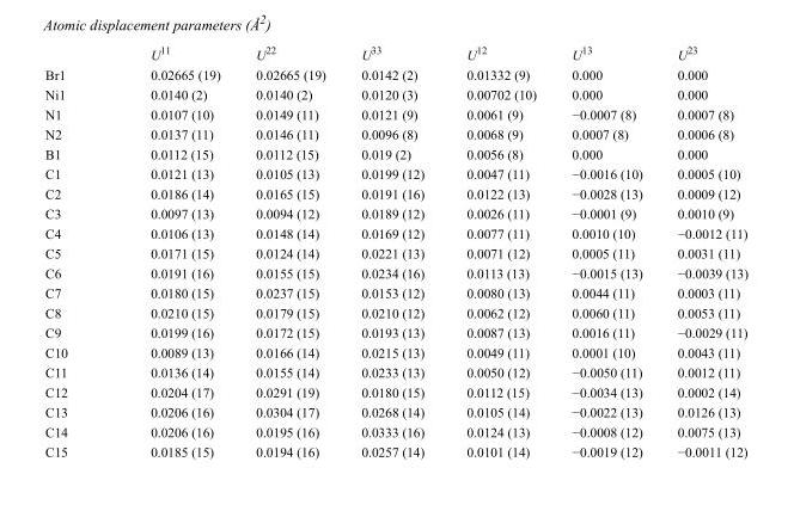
<table><thead><tr><td></td><td>U<sup>11</sup></td><td>U<sup>22</sup></td><td>U<sup>33</sup></td><td>U<sup>12</sup></td><td>U<sup>13</sup></td><td>U<sup>23</sup></td></tr></thead><tbody><tr><td>Br1</td><td>0.02665 (19)</td><td>0.02665 (19)</td><td>0.0142 (2)</td><td>0.01332 (9)</td><td>0.000</td><td>0.000</td></tr><tr><td>Ni1</td><td>0.0140 (2)</td><td>0.0140 (2)</td><td>0.0120 (3)</td><td>0.00702 (10)</td><td>0.000</td><td>0.000</td></tr><tr><td>N1</td><td>0.0107 (10)</td><td>0.0149 (11)</td><td>0.0121 (9)</td><td>0.0061 (9)</td><td>−0.0007 (8)</td><td>0.0007 (8)</td></tr><tr><td>N2</td><td>0.0137 (11)</td><td>0.0146 (11)</td><td>0.0096 (8)</td><td>0.0068 (9)</td><td>0.0007 (8)</td><td>0.0006 (8)</td></tr><tr><td>B1</td><td>0.0112 (15)</td><td>0.0112 (15)</td><td>0.019 (2)</td><td>0.0056 (8)</td><td>0.000</td><td>0.000</td></tr><tr><td>C1</td><td>0.0121 (13)</td><td>0.0105 (13)</td><td>0.0199 (12)</td><td>0.0047 (11)</td><td>−0.0016 (10)</td><td>0.0005 (10)</td></tr><tr><td>C2</td><td>0.0186 (14)</td><td>0.0165 (15)</td><td>0.0191 (16)</td><td>0.0122 (13)</td><td>−0.0028 (13)</td><td>0.0009 (12)</td></tr><tr><td>C3</td><td>0.0097 (13)</td><td>0.0094 (12)</td><td>0.0189 (12)</td><td>0.0026 (11)</td><td>−0.0001 (9)</td><td>0.0010 (9)</td></tr><tr><td>C4</td><td>0.0106 (13)</td><td>0.0148 (14)</td><td>0.0169 (12)</td><td>0.0077 (11)</td><td>0.0010 (10)</td><td>−0.0012 (11)</td></tr><tr><td>C5</td><td>0.0171 (15)</td><td>0.0124 (14)</td><td>0.0221 (13)</td><td>0.0071 (12)</td><td>0.0005 (11)</td><td>0.0031 (11)</td></tr><tr><td>C6</td><td>0.0191 (16)</td><td>0.0155 (15)</td><td>0.0234 (16)</td><td>0.0113 (13)</td><td>−0.0015 (13)</td><td>−0.0039 (13)</td></tr><tr><td>C7</td><td>0.0180 (15)</td><td>0.0237 (15)</td><td>0.0153 (12)</td><td>0.0080 (13)</td><td>0.0044 (11)</td><td>0.0003 (11)</td></tr><tr><td>C8</td><td>0.0210 (15)</td><td>0.0179 (15)</td><td>0.0210 (12)</td><td>0.0062 (12)</td><td>0.0060 (11)</td><td>0.0053 (11)</td></tr><tr><td>C9</td><td>0.0199 (16)</td><td>0.0172 (15)</td><td>0.0193 (13)</td><td>0.0087 (13)</td><td>0.0016 (11)</td><td>−0.0029 (11)</td></tr><tr><td>C10</td><td>0.0089 (13)</td><td>0.0166 (14)</td><td>0.0215 (13)</td><td>0.0049 (11)</td><td>0.0001 (10)</td><td>0.0043 (11)</td></tr><tr><td>C11</td><td>0.0136 (14)</td><td>0.0155 (14)</td><td>0.0233 (13)</td><td>0.0050 (12)</td><td>−0.0050 (11)</td><td>0.0012 (11)</td></tr><tr><td>C12</td><td>0.0204 (17)</td><td>0.0291 (19)</td><td>0.0180 (15)</td><td>0.0112 (15)</td><td>−0.0034 (13)</td><td>0.0002 (14)</td></tr><tr><td>C13</td><td>0.0206 (16)</td><td>0.0304 (17)</td><td>0.0268 (14)</td><td>0.0105 (14)</td><td>−0.0022 (13)</td><td>0.0126 (13)</td></tr><tr><td>C14</td><td>0.0206 (16)</td><td>0.0195 (16)</td><td>0.0333 (16)</td><td>0.0124 (13)</td><td>−0.0008 (12)</td><td>0.0075 (13)</td></tr><tr><td>C15</td><td>0.0185 (15)</td><td>0.0194 (16)</td><td>0.0257 (14)</td><td>0.0101 (14)</td><td>−0.0019 (12)</td><td>−0.0011 (12)</td></tr></tbody></table>